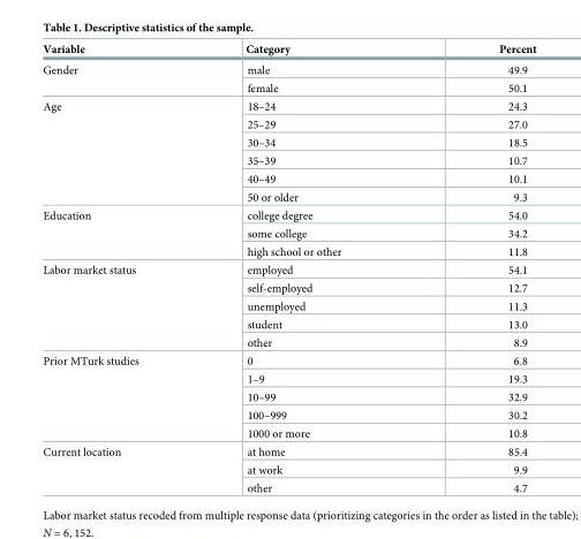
<table><thead><tr><td>Variable</td><td>Category</td><td>Percent</td></tr></thead><tbody><tr><td rowspan="2">Gender</td><td>male</td><td>49.9</td></tr><tr><td>female</td><td>50.1</td></tr><tr><td rowspan="6">Age</td><td>18–24</td><td>24.3</td></tr><tr><td>25–29</td><td>27.0</td></tr><tr><td>30–34</td><td>18.5</td></tr><tr><td>35–39</td><td>10.7</td></tr><tr><td>40–49</td><td>10.1</td></tr><tr><td>50 or older</td><td>9.3</td></tr><tr><td rowspan="3">Education</td><td>college degree</td><td>54.0</td></tr><tr><td>some college</td><td>34.2</td></tr><tr><td>high school or other</td><td>11.8</td></tr><tr><td rowspan="5">Labor market status</td><td>employed</td><td>54.1</td></tr><tr><td>self-employed</td><td>12.7</td></tr><tr><td>unemployed</td><td>11.3</td></tr><tr><td>student</td><td>13.0</td></tr><tr><td>other</td><td>8.9</td></tr><tr><td rowspan="5">Prior MTurk studies</td><td>0</td><td>6.8</td></tr><tr><td>1–9</td><td>19.3</td></tr><tr><td>10–99</td><td>32.9</td></tr><tr><td>100–999</td><td>30.2</td></tr><tr><td>1000 or more</td><td>10.8</td></tr><tr><td rowspan="3">Current location</td><td>at home</td><td>85.4</td></tr><tr><td>at work</td><td>9.9</td></tr><tr><td>other</td><td>4.7</td></tr></tbody></table>